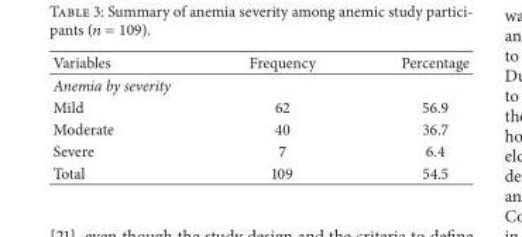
<table><thead><tr><td>Variables</td><td>Frequency</td><td>Percentage</td></tr></thead><tbody><tr><td colspan="3">Anemia by severity</td></tr><tr><td>Mild</td><td>62</td><td>56.9</td></tr><tr><td>Moderate</td><td>40</td><td>36.7</td></tr><tr><td>Severe</td><td>7</td><td>6.4</td></tr><tr><td>Total</td><td>109</td><td>54.5</td></tr></tbody></table>